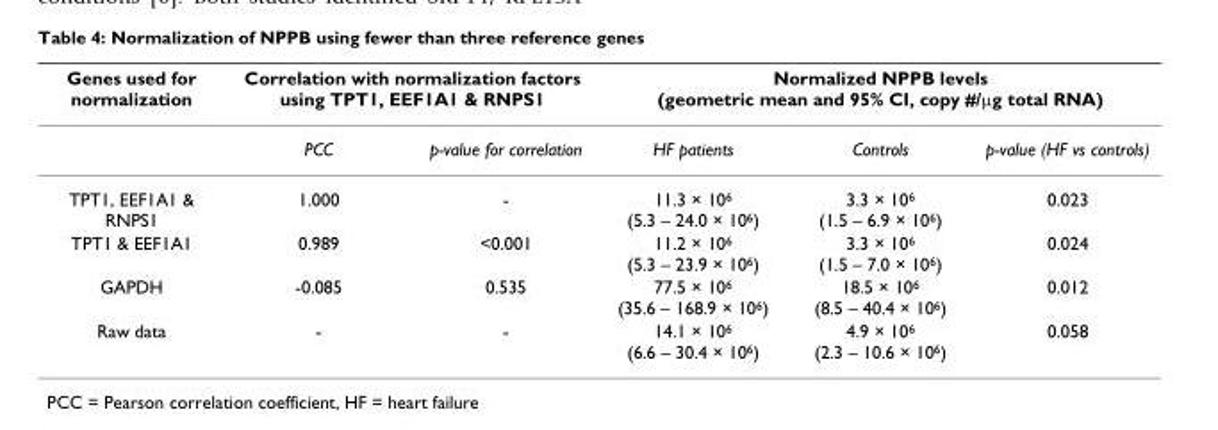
<table><thead><tr><td rowspan="2">Genes used for normalization</td><td colspan="2">Correlation with normalization factors using TPT1, EEF1A1 &amp; RNPS1</td><td colspan="3">Normalized NPPB levels (geometric mean and 95% CI, copy #/μg total RNA)</td></tr><tr><td>PCC</td><td>p-value for correlation</td><td>HF patients</td><td>Controls</td><td>p-value (HF vs controls)</td></tr></thead><tbody><tr><td>TPT1, EEF1A1 &amp; RNPS1</td><td>1.000</td><td>-</td><td>11.3 × 10<sup>6</sup> (5.3 – 24.0 × 10<sup>6</sup>)</td><td>3.3 × 10<sup>6</sup> (1.5 – 6.9 × 10<sup>6</sup>)</td><td>0.023</td></tr><tr><td>TPT1 &amp; EEF1A1</td><td>0.989</td><td>&lt;0.001</td><td>11.2 × 10<sup>6</sup> (5.3 – 23.9 × 10<sup>6</sup>)</td><td>3.3 × 10<sup>6</sup> (1.5 – 7.0 × 10<sup>6</sup>)</td><td>0.024</td></tr><tr><td>GAPDH</td><td>-0.085</td><td>0.535</td><td>77.5 × 10<sup>6</sup> (35.6 – 168.9 × 10<sup>6</sup>)</td><td>18.5 × 10<sup>6</sup> (8.5 – 40.4 × 10<sup>6</sup>)</td><td>0.012</td></tr><tr><td>Raw data</td><td>-</td><td>-</td><td>14.1 × 10<sup>6</sup> (6.6 – 30.4 × 10<sup>6</sup>)</td><td>4.9 × 10<sup>6</sup> (2.3 – 10.6 × 10<sup>6</sup>)</td><td>0.058</td></tr></tbody></table>